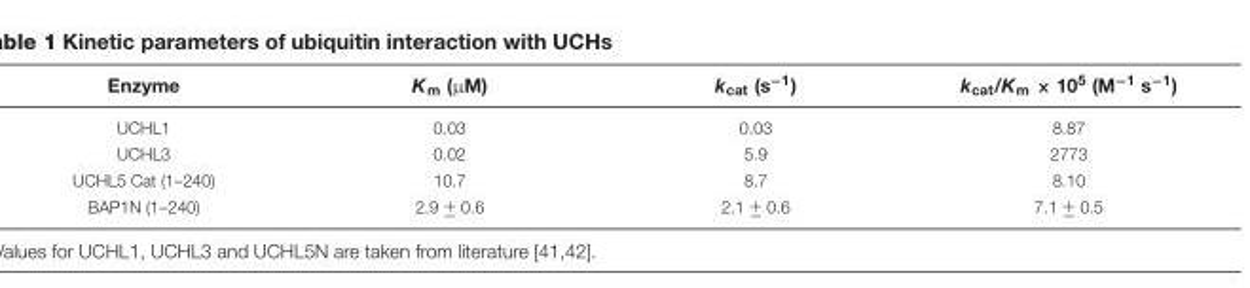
<table><thead><tr><td>Enzyme</td><td>K<sub>m</sub> (μM)</td><td>k<sub>cat</sub> (s<sup>−1</sup>)</td><td>k<sub>cat</sub>/K<sub>m</sub> × 10<sup>5</sup> (M<sup>−1</sup> s<sup>−1</sup>)</td></tr></thead><tbody><tr><td>UCHL1</td><td>0.03</td><td>0.03</td><td>8.87</td></tr><tr><td>UCHL3</td><td>0.02</td><td>5.9</td><td>2773</td></tr><tr><td>UCHL5 Cat (1–240)</td><td>10.7</td><td>8.7</td><td>8.10</td></tr><tr><td>BAP1N (1–240)</td><td>2.9 0.6</td><td>2.1 0.6</td><td>7.1 0.5</td></tr></tbody></table>